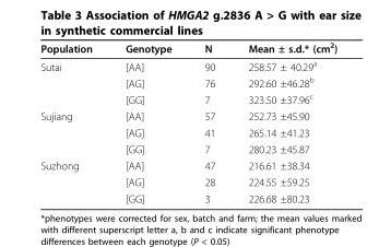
<table><thead><tr><td>Population</td><td>Genotype</td><td>N</td><td>Mean ± s.d.* (cm<sup>2</sup>)</td></tr></thead><tbody><tr><td rowspan="3">Sutai</td><td>[AA]</td><td>90</td><td>258.57 ± 40.29<sup>a</sup></td></tr><tr><td>[AG]</td><td>76</td><td>292.60 ±46.28<sup>b</sup></td></tr><tr><td>[GG]</td><td>7</td><td>323.50 ±37.96<sup>c</sup></td></tr><tr><td rowspan="3">Sujiang</td><td>[AA]</td><td>57</td><td>252.73 ±45.90</td></tr><tr><td>[AG]</td><td>41</td><td>265.14 ±41.23</td></tr><tr><td>[GG]</td><td>7</td><td>280.23 ±45.87</td></tr><tr><td rowspan="3">Suzhong</td><td>[AA]</td><td>47</td><td>216.61 ±38.34</td></tr><tr><td>[AG]</td><td>28</td><td>224.55 ±59.25</td></tr><tr><td>[GG]</td><td>3</td><td>226.68 ±80.23</td></tr></tbody></table>